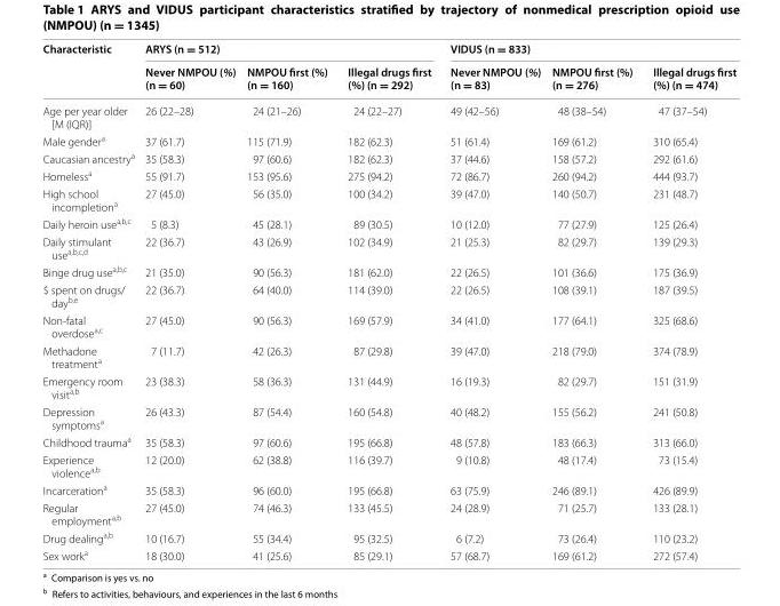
<table><thead><tr><td rowspan="2">Characteristic</td><td colspan="3">ARYS (n = 512)</td><td colspan="3">VIDUS (n = 833)</td></tr><tr><td>Never NMPOU (%) (n = 60)</td><td>NMPOU first (%) (n = 160)</td><td>Illegal drugs first (%) (n = 292)</td><td>Never NMPOU (%) (n = 83)</td><td>NMPOU first (%) (n = 276)</td><td>Illegal drugs first (%) (n = 474)</td></tr></thead><tbody><tr><td>Age per year older [M (IQR)]</td><td>26 (22–28)</td><td>24 (21–26)</td><td>24 (22–27)</td><td>49 (42–56)</td><td>48 (38–54)</td><td>47 (37–54)</td></tr><tr><td>Male gender<sup>a</sup></td><td>37 (61.7)</td><td>115 (71.9)</td><td>182 (62.3)</td><td>51 (61.4)</td><td>169 (61.2)</td><td>310 (65.4)</td></tr><tr><td>Caucasian ancestry<sup>a</sup></td><td>35 (58.3)</td><td>97 (60.6)</td><td>182 (62.3)</td><td>37 (44.6)</td><td>158 (57.2)</td><td>292 (61.6)</td></tr><tr><td>Homeless<sup>a</sup></td><td>55 (91.7)</td><td>153 (95.6)</td><td>275 (94.2)</td><td>72 (86.7)</td><td>260 (94.2)</td><td>444 (93.7)</td></tr><tr><td>High school incompletion<sup>a</sup></td><td>27 (45.0)</td><td>56 (35.0)</td><td>100 (34.2)</td><td>39 (47.0)</td><td>140 (50.7)</td><td>231 (48.7)</td></tr><tr><td>Daily heroin use<sup>a,b,c</sup></td><td>5 (8.3)</td><td>45 (28.1)</td><td>89 (30.5)</td><td>10 (12.0)</td><td>77 (27.9)</td><td>125 (26.4)</td></tr><tr><td>Daily stimulant use<sup>a,b,c,d</sup></td><td>22 (36.7)</td><td>43 (26.9)</td><td>102 (34.9)</td><td>21 (25.3)</td><td>82 (29.7)</td><td>139 (29.3)</td></tr><tr><td>Binge drug use<sup>a,b,c</sup></td><td>21 (35.0)</td><td>90 (56.3)</td><td>181 (62.0)</td><td>22 (26.5)</td><td>101 (36.6)</td><td>175 (36.9)</td></tr><tr><td>$ spent on drugs/ day<sup>b,e</sup></td><td>22 (36.7)</td><td>64 (40.0)</td><td>114 (39.0)</td><td>22 (26.5)</td><td>108 (39.1)</td><td>187 (39.5)</td></tr><tr><td>Non-fatal overdose<sup>a,c</sup></td><td>27 (45.0)</td><td>90 (56.3)</td><td>169 (57.9)</td><td>34 (41.0)</td><td>177 (64.1)</td><td>325 (68.6)</td></tr><tr><td>Methadone treatment<sup>a</sup></td><td>7 (11.7)</td><td>42 (26.3)</td><td>87 (29.8)</td><td>39 (47.0)</td><td>218 (79.0)</td><td>374 (78.9)</td></tr><tr><td>Emergency room visit<sup>a,b</sup></td><td>23 (38.3)</td><td>58 (36.3)</td><td>131 (44.9)</td><td>16 (19.3)</td><td>82 (29.7)</td><td>151 (31.9)</td></tr><tr><td>Depression symptoms<sup>a</sup></td><td>26 (43.3)</td><td>87 (54.4)</td><td>160 (54.8)</td><td>40 (48.2)</td><td>155 (56.2)</td><td>241 (50.8)</td></tr><tr><td>Childhood trauma<sup>a</sup></td><td>35 (58.3)</td><td>97 (60.6)</td><td>195 (66.8)</td><td>48 (57.8)</td><td>183 (66.3)</td><td>313 (66.0)</td></tr><tr><td>Experience violence<sup>a,b</sup></td><td>12 (20.0)</td><td>62 (38.8)</td><td>116 (39.7)</td><td>9 (10.8)</td><td>48 (17.4)</td><td>73 (15.4)</td></tr><tr><td>Incarceration<sup>a</sup></td><td>35 (58.3)</td><td>96 (60.0)</td><td>195 (66.8)</td><td>63 (75.9)</td><td>246 (89.1)</td><td>426 (89.9)</td></tr><tr><td>Regular employment<sup>a,b</sup></td><td>27 (45.0)</td><td>74 (46.3)</td><td>133 (45.5)</td><td>24 (28.9)</td><td>71 (25.7)</td><td>133 (28.1)</td></tr><tr><td>Drug dealing<sup>a,b</sup></td><td>10 (16.7)</td><td>55 (34.4)</td><td>95 (32.5)</td><td>6 (7.2)</td><td>73 (26.4)</td><td>110 (23.2)</td></tr><tr><td>Sex work<sup>a</sup></td><td>18 (30.0)</td><td>41 (25.6)</td><td>85 (29.1)</td><td>57 (68.7)</td><td>169 (61.2)</td><td>272 (57.4)</td></tr></tbody></table>